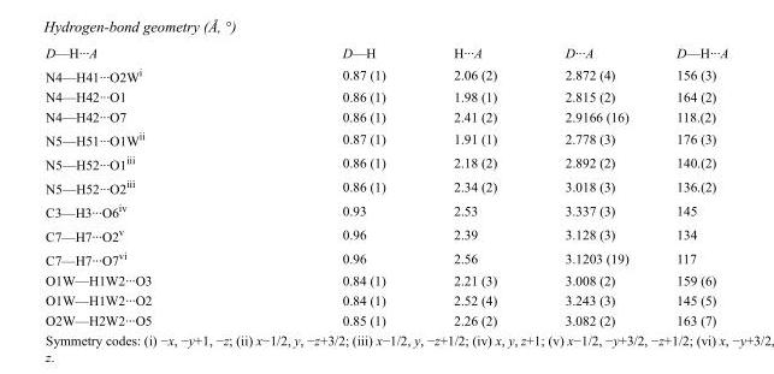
<table><tbody><tr><td>D—H···A</td><td>D—H</td><td>H···A</td><td>D···A</td><td>D—H···A</td></tr><tr><td>N4—H41···O2W<sup>i</sup></td><td>0.87 (1)</td><td>2.06 (2)</td><td>2.872 (4)</td><td>156 (3)</td></tr><tr><td>N4—H42···O1</td><td>0.86 (1)</td><td>1.98 (1)</td><td>2.815 (2)</td><td>164 (2)</td></tr><tr><td>N4—H42···O7</td><td>0.86 (1)</td><td>2.41 (2)</td><td>2.9166 (16)</td><td>118.(2)</td></tr><tr><td>N5—H51···O1W<sup>ii</sup></td><td>0.87 (1)</td><td>1.91 (1)</td><td>2.778 (3)</td><td>176 (3)</td></tr><tr><td>N5—H52···O1<sup>iii</sup></td><td>0.86 (1)</td><td>2.18 (2)</td><td>2.892 (2)</td><td>140.(2)</td></tr><tr><td>N5—H52···O2<sup>iii</sup></td><td>0.86 (1)</td><td>2.34 (2)</td><td>3.018 (3)</td><td>136.(2)</td></tr><tr><td>C3—H3···O6<sup>iv</sup></td><td>0.93</td><td>2.53</td><td>3.337 (3)</td><td>145</td></tr><tr><td>C7—H7···O2<sup>v</sup></td><td>0.96</td><td>2.39</td><td>3.128 (3)</td><td>134</td></tr><tr><td>C7—H7···O7<sup>vi</sup></td><td>0.96</td><td>2.56</td><td>3.1203 (19)</td><td>117</td></tr><tr><td>O1W—H1W2···O3</td><td>0.84 (1)</td><td>2.21 (3)</td><td>3.008 (2)</td><td>159 (6)</td></tr><tr><td>O1W—H1W2···O2</td><td>0.84 (1)</td><td>2.52 (4)</td><td>3.243 (3)</td><td>145 (5)</td></tr><tr><td>O2W—H2W2···O5</td><td>0.85 (1)</td><td>2.26 (2)</td><td>3.082 (2)</td><td>163 (7)</td></tr></tbody></table>